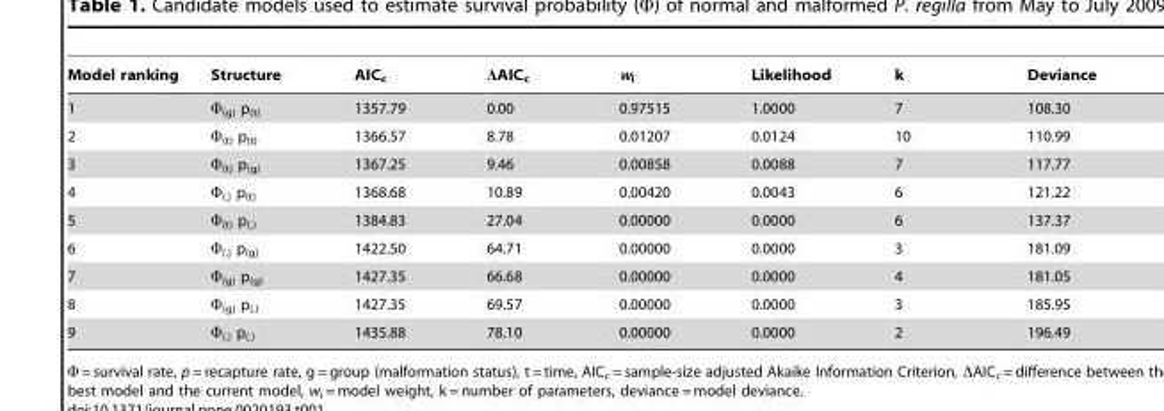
<table><thead><tr><td>Model ranking</td><td>Structure</td><td>AIC<sub>c</sub></td><td>ΔAIC<sub>c</sub></td><td>w<sub>i</sub></td><td>Likelihood</td><td>k</td><td>Deviance</td></tr></thead><tbody><tr><td>1</td><td>Ф<sub>(g)</sub> p<sub>(t)</sub></td><td>1357.79</td><td>0.00</td><td>0.97515</td><td>1.0000</td><td>7</td><td>108.30</td></tr><tr><td>2</td><td>Ф<sub>(t)</sub> p<sub>(t)</sub></td><td>1366.57</td><td>8.78</td><td>0.01207</td><td>0.0124</td><td>10</td><td>110.99</td></tr><tr><td>3</td><td>Ф<sub>(t)</sub> p<sub>(g)</sub></td><td>1367.25</td><td>9.46</td><td>0.00858</td><td>0.0088</td><td>7</td><td>117.77</td></tr><tr><td>4</td><td>Ф<sub>(.)</sub> p<sub>(t)</sub></td><td>1368.68</td><td>10.89</td><td>0.00420</td><td>0.0043</td><td>6</td><td>121.22</td></tr><tr><td>5</td><td>Ф<sub>(t)</sub> p<sub>(.)</sub></td><td>1384.83</td><td>27.04</td><td>0.00000</td><td>0.0000</td><td>6</td><td>137.37</td></tr><tr><td>6</td><td>Ф<sub>(.)</sub> p<sub>(g)</sub></td><td>1422.50</td><td>64.71</td><td>0.00000</td><td>0.0000</td><td>3</td><td>181.09</td></tr><tr><td>7</td><td>Ф<sub>(g)</sub> p<sub>(g)</sub></td><td>1427.35</td><td>66.68</td><td>0.00000</td><td>0.0000</td><td>4</td><td>181.05</td></tr><tr><td>8</td><td>Ф<sub>(g)</sub> p<sub>(.)</sub></td><td>1427.35</td><td>69.57</td><td>0.00000</td><td>0.0000</td><td>3</td><td>185.95</td></tr><tr><td>9</td><td>Ф<sub>(.)</sub> p<sub>(.)</sub></td><td>1435.88</td><td>78.10</td><td>0.00000</td><td>0.0000</td><td>2</td><td>196.49</td></tr></tbody></table>